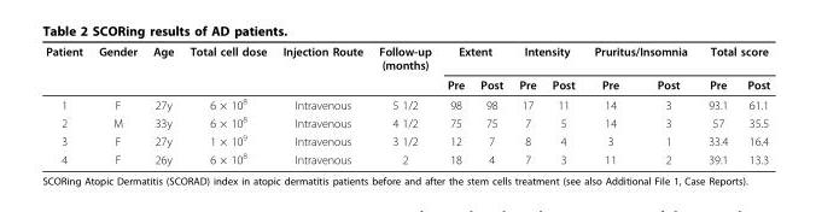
<table><thead><tr><td rowspan="2">Patient</td><td rowspan="2">Gender</td><td rowspan="2">Age</td><td rowspan="2">Total cell dose</td><td rowspan="2">Injection Route</td><td rowspan="2">Follow-up (months)</td><td colspan="2">Extent</td><td colspan="2">Intensity</td><td colspan="2">Pruritus/Insomnia</td><td colspan="2">Total score</td></tr><tr><td>Pre</td><td>Post</td><td>Pre</td><td>Post</td><td>Pre</td><td>Post</td><td>Pre</td><td>Post</td></tr></thead><tbody><tr><td>1</td><td>F</td><td>27y</td><td>6 × 10<sup>8</sup></td><td>Intravenous</td><td>5 1/2</td><td>98</td><td>98</td><td>17</td><td>11</td><td>14</td><td>3</td><td>93.1</td><td>61.1</td></tr><tr><td>2</td><td>M</td><td>33y</td><td>6 × 10<sup>8</sup></td><td>Intravenous</td><td>4 1/2</td><td>75</td><td>75</td><td>7</td><td>5</td><td>14</td><td>3</td><td>57</td><td>35.5</td></tr><tr><td>3</td><td>F</td><td>27y</td><td>1 × 10<sup>9</sup></td><td>Intravenous</td><td>3 1/2</td><td>12</td><td>7</td><td>8</td><td>4</td><td>3</td><td>1</td><td>33.4</td><td>16.4</td></tr><tr><td>4</td><td>F</td><td>26y</td><td>6 × 10<sup>8</sup></td><td>Intravenous</td><td>2</td><td>18</td><td>4</td><td>7</td><td>3</td><td>11</td><td>2</td><td>39.1</td><td>13.3</td></tr></tbody></table>